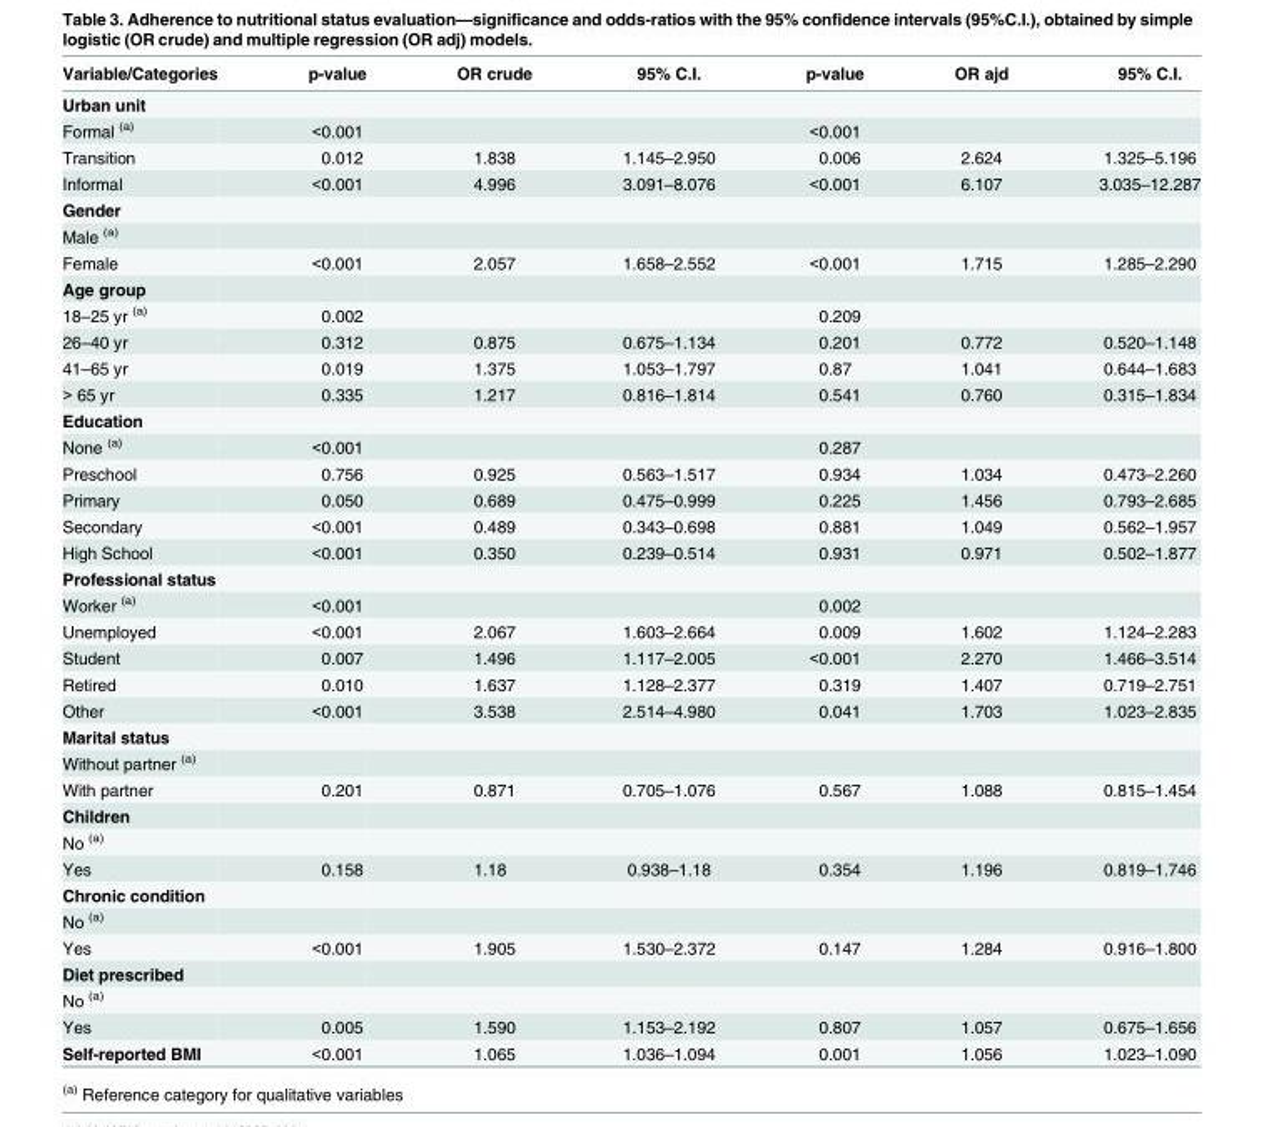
<table><thead><tr><td>Variable/Categories</td><td>p-value</td><td>OR crude</td><td>95% C.I.</td><td>p-value</td><td>OR ajd</td><td>95% C.I.</td></tr></thead><tbody><tr><td colspan="7">Urban unit</td></tr><tr><td>Formal <sup>(a)</sup></td><td>&lt;0.001</td><td></td><td></td><td>&lt;0.001</td><td></td><td></td></tr><tr><td>Transition</td><td>0.012</td><td>1.838</td><td>1.145–2.950</td><td>0.006</td><td>2.624</td><td>1.325–5.196</td></tr><tr><td>Informal</td><td>&lt;0.001</td><td>4.996</td><td>3.091–8.076</td><td>&lt;0.001</td><td>6.107</td><td>3.035–12.287</td></tr><tr><td colspan="7">Gender</td></tr><tr><td colspan="7">Male <sup>(a)</sup></td></tr><tr><td>Female</td><td>&lt;0.001</td><td>2.057</td><td>1.658–2.552</td><td>&lt;0.001</td><td>1.715</td><td>1.285–2.290</td></tr><tr><td colspan="7">Age group</td></tr><tr><td>18–25 yr <sup>(a)</sup></td><td>0.002</td><td></td><td></td><td>0.209</td><td></td><td></td></tr><tr><td>26–40 yr</td><td>0.312</td><td>0.875</td><td>0.675–1.134</td><td>0.201</td><td>0.772</td><td>0.520–1.148</td></tr><tr><td>41–65 yr</td><td>0.019</td><td>1.375</td><td>1.053–1.797</td><td>0.87</td><td>1.041</td><td>0.644–1.683</td></tr><tr><td>&gt; 65 yr</td><td>0.335</td><td>1.217</td><td>0.816–1.814</td><td>0.541</td><td>0.760</td><td>0.315–1.834</td></tr><tr><td colspan="7">Education</td></tr><tr><td>None <sup>(a)</sup></td><td>&lt;0.001</td><td></td><td></td><td>0.287</td><td></td><td></td></tr><tr><td>Preschool</td><td>0.756</td><td>0.925</td><td>0.563–1.517</td><td>0.934</td><td>1.034</td><td>0.473–2.260</td></tr><tr><td>Primary</td><td>0.050</td><td>0.689</td><td>0.475–0.999</td><td>0.225</td><td>1.456</td><td>0.793–2.685</td></tr><tr><td>Secondary</td><td>&lt;0.001</td><td>0.489</td><td>0.343–0.698</td><td>0.881</td><td>1.049</td><td>0.562–1.957</td></tr><tr><td>High School</td><td>&lt;0.001</td><td>0.350</td><td>0.239–0.514</td><td>0.931</td><td>0.971</td><td>0.502–1.877</td></tr><tr><td colspan="7">Professional status</td></tr><tr><td>Worker <sup>(a)</sup></td><td>&lt;0.001</td><td></td><td></td><td>0.002</td><td></td><td></td></tr><tr><td>Unemployed</td><td>&lt;0.001</td><td>2.067</td><td>1.603–2.664</td><td>0.009</td><td>1.602</td><td>1.124–2.283</td></tr><tr><td>Student</td><td>0.007</td><td>1.496</td><td>1.117–2.005</td><td>&lt;0.001</td><td>2.270</td><td>1.466–3.514</td></tr><tr><td>Retired</td><td>0.010</td><td>1.637</td><td>1.128–2.377</td><td>0.319</td><td>1.407</td><td>0.719–2.751</td></tr><tr><td>Other</td><td>&lt;0.001</td><td>3.538</td><td>2.514–4.980</td><td>0.041</td><td>1.703</td><td>1.023–2.835</td></tr><tr><td colspan="7">Marital status</td></tr><tr><td colspan="7">Without partner <sup>(a)</sup></td></tr><tr><td>With partner</td><td>0.201</td><td>0.871</td><td>0.705–1.076</td><td>0.567</td><td>1.088</td><td>0.815–1.454</td></tr><tr><td colspan="7">Children</td></tr><tr><td colspan="7">No <sup>(a)</sup></td></tr><tr><td>Yes</td><td>0.158</td><td>1.18</td><td>0.938–1.18</td><td>0.354</td><td>1.196</td><td>0.819–1.746</td></tr><tr><td colspan="7">Chronic condition</td></tr><tr><td colspan="7">No <sup>(a)</sup></td></tr><tr><td>Yes</td><td>&lt;0.001</td><td>1.905</td><td>1.530–2.372</td><td>0.147</td><td>1.284</td><td>0.916–1.800</td></tr><tr><td colspan="7">Diet prescribed</td></tr><tr><td colspan="7">No <sup>(a)</sup></td></tr><tr><td>Yes</td><td>0.005</td><td>1.590</td><td>1.153–2.192</td><td>0.807</td><td>1.057</td><td>0.675–1.656</td></tr><tr><td>Self-reported BMI</td><td>&lt;0.001</td><td>1.065</td><td>1.036–1.094</td><td>0.001</td><td>1.056</td><td>1.023–1.090</td></tr></tbody></table>